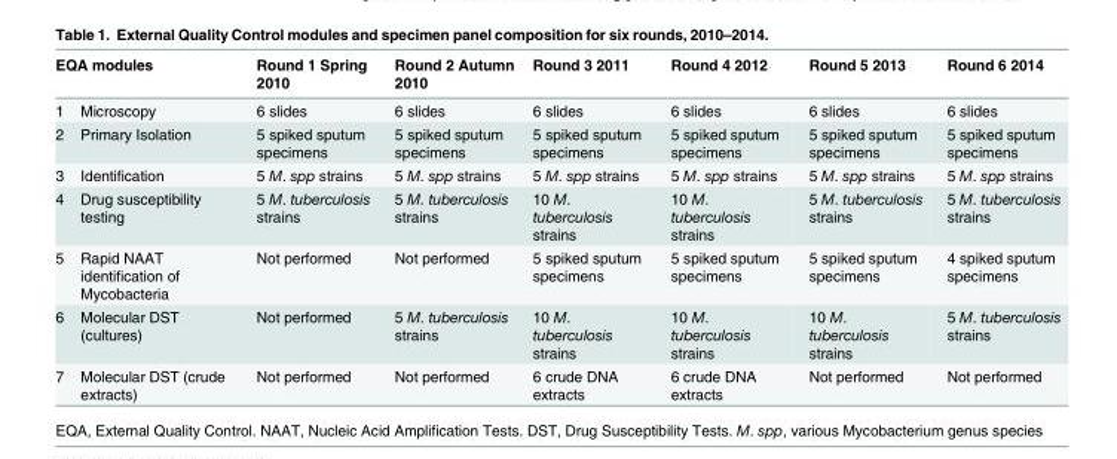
<table><thead><tr><td colspan="2">EQA modules</td><td rowspan="2">Round 1 Spring 2010 6 slides</td><td rowspan="2">Round 2 Autumn 2010 6 slides</td><td rowspan="2">Round 3 2011 6 slides</td><td rowspan="2">Round 4 2012 6 slides</td><td rowspan="2">Round 5 2013 6 slides</td><td rowspan="2">Round 6 2014 6 slides</td></tr><tr><td>1</td><td>Microscopy</td></tr></thead><tbody><tr><td>2</td><td>Primary Isolation</td><td>5 spiked sputum specimens</td><td>5 spiked sputum specimens</td><td>5 spiked sputum specimens</td><td>5 spiked sputum specimens</td><td>5 spiked sputum specimens</td><td>5 spiked sputum specimens</td></tr><tr><td>3</td><td>Identification</td><td>5 M. spp strains</td><td>5 M. spp strains</td><td>5 M. spp strains</td><td>5 M. spp strains</td><td>5 M. spp strains</td><td>5 M. spp strains</td></tr><tr><td>4</td><td>Drug susceptibility testing</td><td>5 M. tuberculosis strains</td><td>5 M. tuberculosis strains</td><td>10 M. tuberculosis strains</td><td>10 M. tuberculosis strains</td><td>5 M. tuberculosis strains</td><td>5 M. tuberculosis strains</td></tr><tr><td>5</td><td>Rapid NAAT identification of Mycobacteria</td><td>Not performed</td><td>Not performed</td><td>5 spiked sputum specimens</td><td>5 spiked sputum specimens</td><td>5 spiked sputum specimens</td><td>4 spiked sputum specimens</td></tr><tr><td>6</td><td>Molecular DST (cultures)</td><td>Not performed</td><td>5 M. tuberculosis strains</td><td>10 M. tuberculosis strains</td><td>10 M. tuberculosis strains</td><td>10 M. tuberculosis strains</td><td>5 M. tuberculosis strains</td></tr><tr><td>7</td><td>Molecular DST (crude extracts)</td><td>Not performed</td><td>Not performed</td><td>6 crude DNA extracts</td><td>6 crude DNA extracts</td><td>Not performed</td><td>Not performed</td></tr></tbody></table>